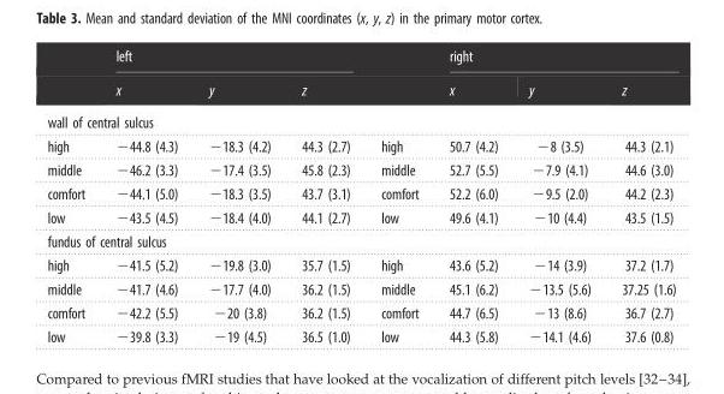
<table><thead><tr><td rowspan="2"></td><td colspan="3">left</td><td rowspan="2"></td><td colspan="3">right</td></tr><tr><td>x</td><td>y</td><td>z</td><td>x</td><td>y</td><td>z</td></tr></thead><tbody><tr><td colspan="8">wall of central sulcus</td></tr><tr><td>high</td><td>−44.8 (4.3)</td><td>−18.3 (4.2)</td><td>44.3 (2.7)</td><td>high</td><td>50.7 (4.2)</td><td>−8 (3.5)</td><td>44.3 (2.1)</td></tr><tr><td>middle</td><td>−46.2 (3.3)</td><td>−17.4 (3.5)</td><td>45.8 (2.3)</td><td>middle</td><td>52.7 (5.5)</td><td>−7.9 (4.1)</td><td>44.6 (3.0)</td></tr><tr><td>comfort</td><td>−44.1 (5.0)</td><td>−18.3 (3.5)</td><td>43.7 (3.1)</td><td>comfort</td><td>52.2 (6.0)</td><td>−9.5 (2.0)</td><td>44.2 (2.3)</td></tr><tr><td>low</td><td>−43.5 (4.5)</td><td>−18.4 (4.0)</td><td>44.1 (2.7)</td><td>low</td><td>49.6 (4.1)</td><td>−10 (4.4)</td><td>43.5 (1.5)</td></tr><tr><td colspan="8">fundus of central sulcus</td></tr><tr><td>high</td><td>−41.5 (5.2)</td><td>−19.8 (3.0)</td><td>35.7 (1.5)</td><td>high</td><td>43.6 (5.2)</td><td>−14 (3.9)</td><td>37.2 (1.7)</td></tr><tr><td>middle</td><td>−41.7 (4.6)</td><td>−17.7 (4.0)</td><td>36.2 (1.5)</td><td>middle</td><td>45.1 (6.2)</td><td>−13.5 (5.6)</td><td>37.25 (1.6)</td></tr><tr><td>comfort</td><td>−42.2 (5.5)</td><td>−20 (3.8)</td><td>36.2 (1.5)</td><td>comfort</td><td>44.7 (6.5)</td><td>−13 (8.6)</td><td>36.7 (2.7)</td></tr><tr><td>low</td><td>−39.8 (3.3)</td><td>−19 (4.5)</td><td>36.5 (1.0)</td><td>low</td><td>44.3 (5.8)</td><td>−14.1 (4.6)</td><td>37.6 (0.8)</td></tr></tbody></table>